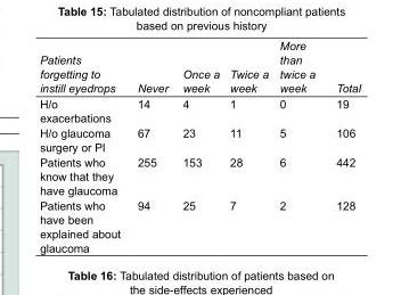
<table><tbody><tr><td>Patients forgetting to instill eyedrops</td><td>Never</td><td>Once a week</td><td>Twice a week</td><td>More than twice a week</td><td>Total</td></tr><tr><td>H/o exacerbations</td><td>14</td><td>4</td><td>1</td><td>0</td><td>19</td></tr><tr><td>H/o glaucoma surgery or PI</td><td>67</td><td>23</td><td>11</td><td>5</td><td>106</td></tr><tr><td>Patients who know that they have glaucoma</td><td>255</td><td>153</td><td>28</td><td>6</td><td>442</td></tr><tr><td>Patients who have been explained about glaucoma</td><td>94</td><td>25</td><td>7</td><td>2</td><td>128</td></tr></tbody></table>